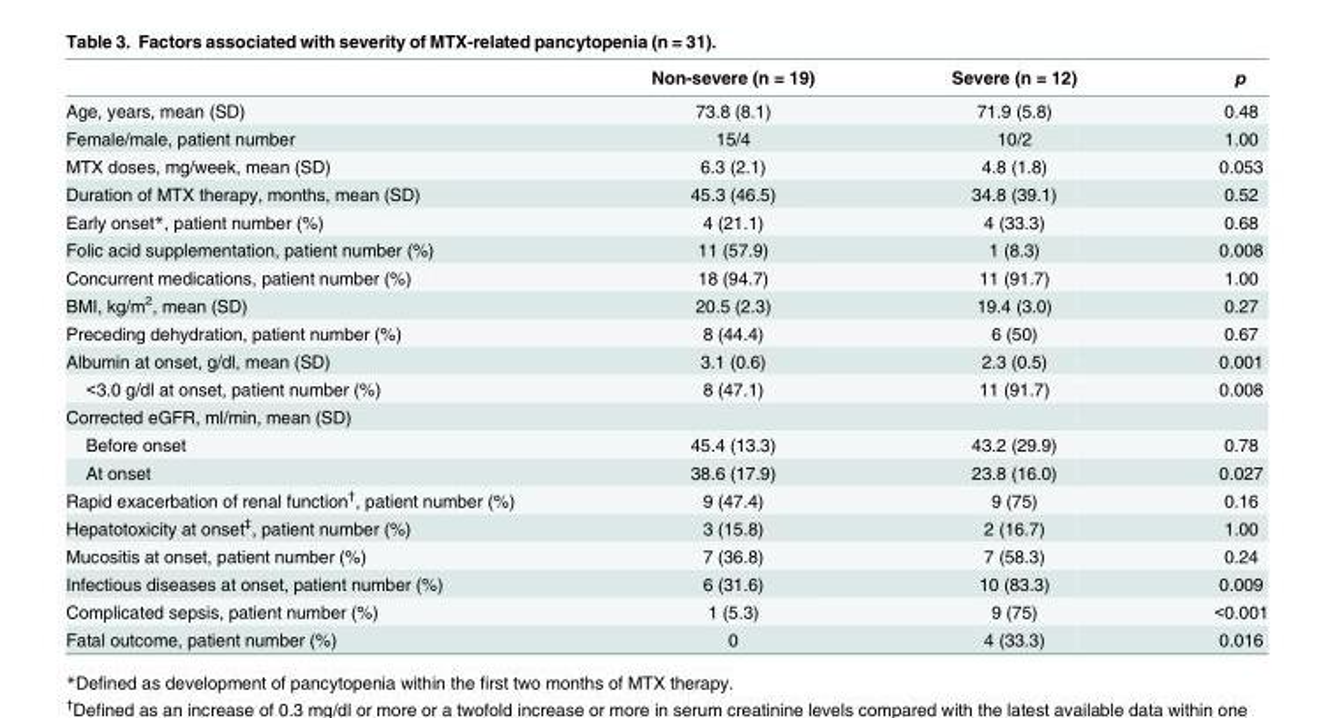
<table><thead><tr><td></td><td>Non-severe (n = 19)</td><td>Severe (n = 12)</td><td>p</td></tr></thead><tbody><tr><td>Age, years, mean (SD)</td><td>73.8 (8.1)</td><td>71.9 (5.8)</td><td>0.48</td></tr><tr><td>Female/male, patient number</td><td>15/4</td><td>10/2</td><td>1.00</td></tr><tr><td>MTX doses, mg/week, mean (SD)</td><td>6.3 (2.1)</td><td>4.8 (1.8)</td><td>0.053</td></tr><tr><td>Duration of MTX therapy, months, mean (SD)</td><td>45.3 (46.5)</td><td>34.8 (39.1)</td><td>0.52</td></tr><tr><td>Early onset*, patient number (%)</td><td>4 (21.1)</td><td>4 (33.3)</td><td>0.68</td></tr><tr><td>Folic acid supplementation, patient number (%)</td><td>11 (57.9)</td><td>1 (8.3)</td><td>0.008</td></tr><tr><td>Concurrent medications, patient number (%)</td><td>18 (94.7)</td><td>11 (91.7)</td><td>1.00</td></tr><tr><td>BMI, kg/m<sup>2</sup>, mean (SD)</td><td>20.5 (2.3)</td><td>19.4 (3.0)</td><td>0.27</td></tr><tr><td>Preceding dehydration, patient number (%)</td><td>8 (44.4)</td><td>6 (50)</td><td>0.67</td></tr><tr><td>Albumin at onset, g/dl, mean (SD)</td><td>3.1 (0.6)</td><td>2.3 (0.5)</td><td>0.001</td></tr><tr><td>&lt;3.0 g/dl at onset, patient number (%)</td><td>8 (47.1)</td><td>11 (91.7)</td><td>0.008</td></tr><tr><td colspan="4">Corrected eGFR, ml/min, mean (SD)</td></tr><tr><td>Before onset</td><td>45.4 (13.3)</td><td>43.2 (29.9)</td><td>0.78</td></tr><tr><td>At onset</td><td>38.6 (17.9)</td><td>23.8 (16.0)</td><td>0.027</td></tr><tr><td>Rapid exacerbation of renal function<sup>†</sup>, patient number (%)</td><td>9 (47.4)</td><td>9 (75)</td><td>0.16</td></tr><tr><td>Hepatotoxicity at onset<sup>‡</sup>, patient number (%)</td><td>3 (15.8)</td><td>2 (16.7)</td><td>1.00</td></tr><tr><td>Mucositis at onset, patient number (%)</td><td>7 (36.8)</td><td>7 (58.3)</td><td>0.24</td></tr><tr><td>Infectious diseases at onset, patient number (%)</td><td>6 (31.6)</td><td>10 (83.3)</td><td>0.009</td></tr><tr><td>Complicated sepsis, patient number (%)</td><td>1 (5.3)</td><td>9 (75)</td><td>&lt;0.001</td></tr><tr><td>Fatal outcome, patient number (%)</td><td>0</td><td>4 (33.3)</td><td>0.016</td></tr></tbody></table>